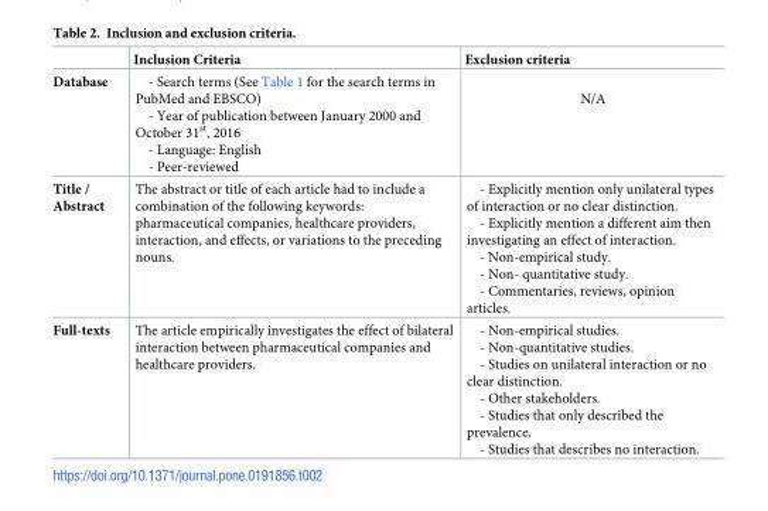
<table><thead><tr><td></td><td>Inclusion Criteria</td><td>Exclusion criteria</td></tr></thead><tbody><tr><td>Database</td><td>- Search terms (See Table 1 for the search terms in PubMed and EBSCO) - Year of publication between January 2000 and October 31<sup>st</sup>, 2016 - Language: English - Peer-reviewed</td><td>N/A</td></tr><tr><td>Title / Abstract</td><td>The abstract or title of each article had to include a combination of the following keywords: pharmaceutical companies, healthcare providers, interaction, and effects, or variations to the preceding nouns.</td><td>- Explicitly mention only unilateral types of interaction or no clear distinction. - Explicitly mention a different aim then investigating an effect of interaction. - Non-empirical study. - Non- quantitative study. - Commentaries, reviews, opinion articles.</td></tr><tr><td>Full-texts</td><td>The article empirically investigates the effect of bilateral interaction between pharmaceutical companies and healthcare providers.</td><td>- Non-empirical studies. - Non-quantitative studies. - Studies on unilateral interaction or no clear distinction. - Other stakeholders. - Studies that only described the prevalence. - Studies that describes no interaction.</td></tr></tbody></table>